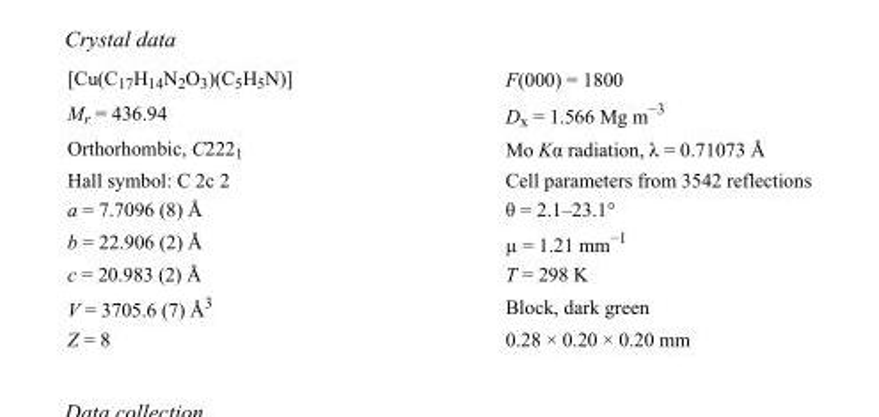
<table><tbody><tr><td>[Cu(C<sub>17</sub>H<sub>14</sub>N<sub>2</sub>O<sub>3</sub>)(C<sub>5</sub>H<sub>5</sub>N)]</td><td>F(000) = 1800</td></tr><tr><td>M<sub>r</sub> = 436.94</td><td>D<sub>x</sub> = 1.566 Mg m<sup>−3</sup></td></tr><tr><td>Orthorhombic, C222<sub>1</sub></td><td>Mo Kα radiation, λ = 0.71073 Å</td></tr><tr><td>Hall symbol: C 2c 2</td><td>Cell parameters from 3542 reflections</td></tr><tr><td>a = 7.7096 (8) Å</td><td>θ = 2.1–23.1°</td></tr><tr><td>b = 22.906 (2) Å</td><td>µ = 1.21 mm<sup>−1</sup></td></tr><tr><td>c = 20.983 (2) Å</td><td>T = 298 K</td></tr><tr><td>V = 3705.6 (7) Å<sup>3</sup></td><td>Block, dark green</td></tr><tr><td>Z = 8</td><td>0.28 × 0.20 × 0.20 mm</td></tr></tbody></table>